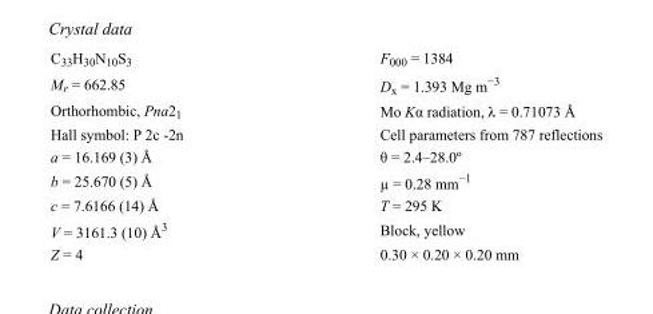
<table><tbody><tr><td>C<sub>33</sub>H<sub>30</sub>N<sub>10</sub>S<sub>3</sub></td><td>F000 = 1384</td></tr><tr><td>M<sub>r</sub> = 662.85</td><td>D<sub>x</sub> = 1.393 Mg m<sup>−3</sup></td></tr><tr><td>Orthorhombic, Pna2<sub>1</sub></td><td>Mo Kα radiation, λ = 0.71073 Å</td></tr><tr><td>Hall symbol: P 2c -2n</td><td>Cell parameters from 787 reflections</td></tr><tr><td>a = 16.169 (3) Å</td><td>θ = 2.4–28.0º</td></tr><tr><td>b = 25.670 (5) Å</td><td>µ = 0.28 mm<sup>−1</sup></td></tr><tr><td>c = 7.6166 (14) Å</td><td>T = 295 K</td></tr><tr><td>V = 3161.3 (10) Å<sup>3</sup></td><td>Block, yellow</td></tr><tr><td>Z = 4</td><td>0.30 × 0.20 × 0.20 mm</td></tr></tbody></table>